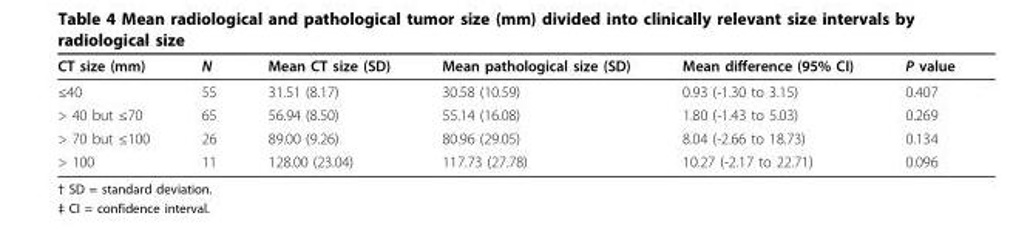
<table><thead><tr><td>CT size (mm)</td><td>N</td><td>Mean CT size (SD)</td><td>Mean pathological size (SD)</td><td>Mean difference (95% CI)</td><td>P value</td></tr></thead><tbody><tr><td>≤40</td><td>55</td><td>31.51 (8.17)</td><td>30.58 (10.59)</td><td>0.93 (-1.30 to 3.15)</td><td>0.407</td></tr><tr><td>&gt; 40 but ≤70</td><td>65</td><td>56.94 (8.50)</td><td>55.14 (16.08)</td><td>1.80 (-1.43 to 5.03)</td><td>0.269</td></tr><tr><td>&gt; 70 but ≤100</td><td>26</td><td>89.00 (9.26)</td><td>80.96 (29.05)</td><td>8.04 (-2.66 to 18.73)</td><td>0.134</td></tr><tr><td>&gt; 100</td><td>11</td><td>128.00 (23.04)</td><td>117.73 (27.78)</td><td>10.27 (-2.17 to 22.71)</td><td>0.096</td></tr></tbody></table>